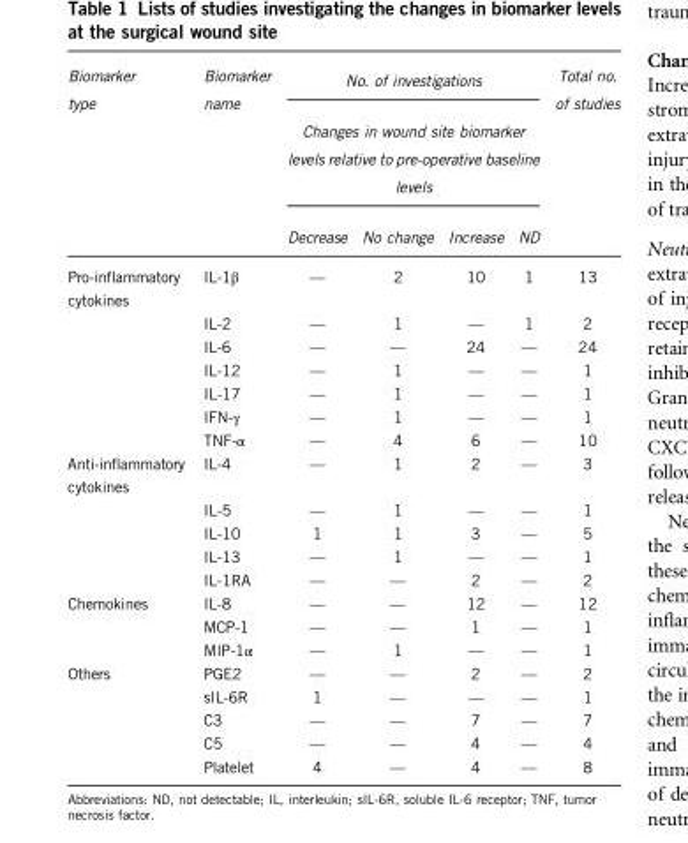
<table><thead><tr><td rowspan="3">Biomarker type</td><td rowspan="3">Biomarker name</td><td rowspan="2" colspan="4">No. of investigations Changes in wound site biomarker levels relative to pre-operative baseline levels</td><td rowspan="3">Total no. of studies</td></tr><tr></tr><tr><td>Decrease</td><td>No change</td><td>Increase</td><td>ND</td></tr></thead><tbody><tr><td rowspan="7">Pro-inflammatory cytokines</td><td>IL-1β</td><td>—</td><td>2</td><td>10</td><td>1</td><td>13</td></tr><tr><td>IL-2</td><td>—</td><td>1</td><td>—</td><td>1</td><td>2</td></tr><tr><td>IL-6</td><td>—</td><td>—</td><td>24</td><td>—</td><td>24</td></tr><tr><td>IL-12</td><td>—</td><td>1</td><td>—</td><td>—</td><td>1</td></tr><tr><td>IL-17</td><td>—</td><td>1</td><td>—</td><td>—</td><td>1</td></tr><tr><td>IFN-γ</td><td>—</td><td>1</td><td>—</td><td>—</td><td>1</td></tr><tr><td>TNF-α</td><td>—</td><td>4</td><td>6</td><td>—</td><td>10</td></tr><tr><td rowspan="5">Anti-inflammatory cytokines</td><td>IL-4</td><td>—</td><td>1</td><td>2</td><td>—</td><td>3</td></tr><tr><td>IL-5</td><td>—</td><td>1</td><td>—</td><td>—</td><td>1</td></tr><tr><td>IL-10</td><td>1</td><td>1</td><td>3</td><td>—</td><td>5</td></tr><tr><td>IL-13</td><td>—</td><td>1</td><td>—</td><td>—</td><td>1</td></tr><tr><td>IL-1RA</td><td>—</td><td>—</td><td>2</td><td>—</td><td>2</td></tr><tr><td rowspan="3">Chemokines</td><td>IL-8</td><td>—</td><td>—</td><td>12</td><td>—</td><td>12</td></tr><tr><td>MCP-1</td><td>—</td><td>—</td><td>1</td><td>—</td><td>1</td></tr><tr><td>MIP-1α</td><td>—</td><td>1</td><td>—</td><td>—</td><td>1</td></tr><tr><td rowspan="5">Others</td><td>PGE2</td><td>—</td><td>—</td><td>2</td><td>—</td><td>2</td></tr><tr><td>sIL-6R</td><td>1</td><td>—</td><td>—</td><td>—</td><td>1</td></tr><tr><td>C3</td><td>—</td><td>—</td><td>7</td><td>—</td><td>7</td></tr><tr><td>C5</td><td>—</td><td>—</td><td>4</td><td>—</td><td>4</td></tr><tr><td>Platelet</td><td>4</td><td>—</td><td>4</td><td>—</td><td>8</td></tr></tbody></table>